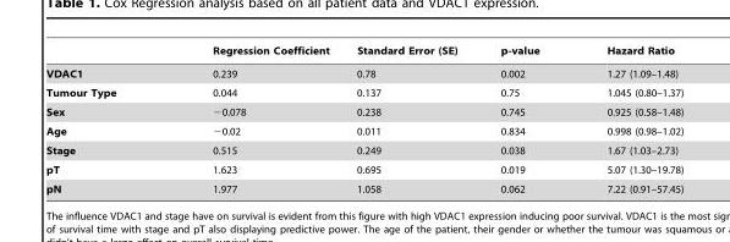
<table><thead><tr><td></td><td>Regression Coefficient</td><td>Standard Error (SE)</td><td>p-value</td><td>Hazard Ratio</td></tr></thead><tbody><tr><td>VDAC1</td><td>0.239</td><td>0.78</td><td>0.002</td><td>1.27 (1.09–1.48)</td></tr><tr><td>Tumour Type</td><td>0.044</td><td>0.137</td><td>0.75</td><td>1.045 (0.80–1.37)</td></tr><tr><td>Sex</td><td>−0.078</td><td>0.238</td><td>0.745</td><td>0.925 (0.58–1.48)</td></tr><tr><td>Age</td><td>−0.02</td><td>0.011</td><td>0.834</td><td>0.998 (0.98–1.02)</td></tr><tr><td>Stage</td><td>0.515</td><td>0.249</td><td>0.038</td><td>1.67 (1.03–2.73)</td></tr><tr><td>pT</td><td>1.623</td><td>0.695</td><td>0.019</td><td>5.07 (1.30–19.78)</td></tr><tr><td>pN</td><td>1.977</td><td>1.058</td><td>0.062</td><td>7.22 (0.91–57.45)</td></tr></tbody></table>